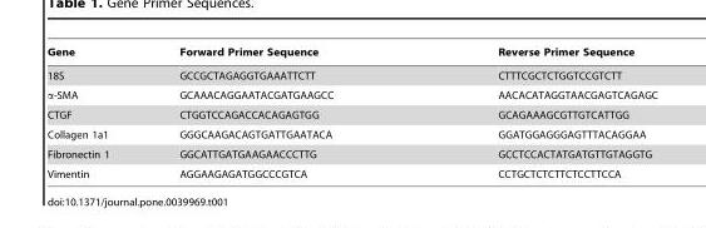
<table><thead><tr><td>Gene</td><td>Forward Primer Sequence</td><td>Reverse Primer Sequence</td></tr></thead><tbody><tr><td>18S</td><td>GCCGCTAGAGGTGAAATTCTT</td><td>CTTTCGCTCTGGTCCGTCTT</td></tr><tr><td>α-SMA</td><td>GCAAACAGGAATACGATGAAGCC</td><td>AACACATAGGTAACGAGTCAGAGC</td></tr><tr><td>CTGF</td><td>CTGGTCCAGACCACAGAGTGG</td><td>GCAGAAAGCGTTGTCATTGG</td></tr><tr><td>Collagen 1a1</td><td>GGGCAAGACAGTGATTGAATACA</td><td>GGATGGAGGGAGTTTACAGGAA</td></tr><tr><td>Fibronectin 1</td><td>GGCATTGATGAAGAACCCTTG</td><td>GCCTCCACTATGATGTTGTAGGTG</td></tr><tr><td>Vimentin</td><td>AGGAAGAGATGGCCCGTCA</td><td>CCTGCTCTCTTCTCCTTCCA</td></tr></tbody></table>